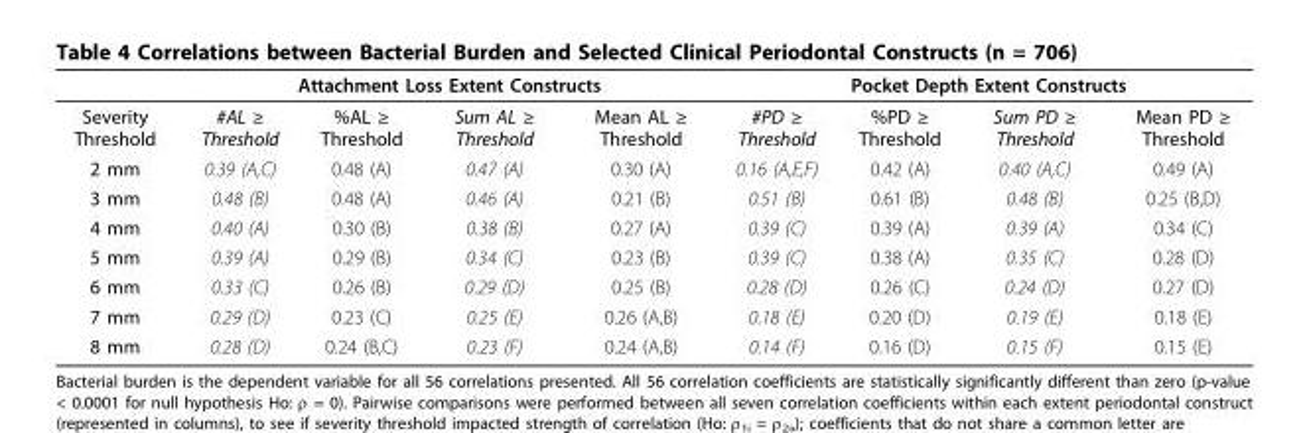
<table><thead><tr><td rowspan="2">Severity Threshold</td><td colspan="4">Attachment Loss Extent Constructs</td><td colspan="4">Pocket Depth Extent Constructs</td></tr><tr><td>#AL ≥ Threshold</td><td>%AL ≥ Threshold</td><td>Sum AL ≥ Threshold</td><td>Mean AL ≥ Threshold</td><td>#PD ≥ Threshold</td><td>%PD ≥ Threshold</td><td>Sum PD ≥ Threshold</td><td>Mean PD ≥ Threshold</td></tr></thead><tbody><tr><td>2 mm</td><td>0.39 (A,C)</td><td>0.48 (A)</td><td>0.47 (A)</td><td>0.30 (A)</td><td>0.16 (A,E,F)</td><td>0.42 (A)</td><td>0.40 (A,C)</td><td>0.49 (A)</td></tr><tr><td>3 mm</td><td>0.48 (B)</td><td>0.48 (A)</td><td>0.46 (A)</td><td>0.21 (B)</td><td>0.51 (B)</td><td>0.61 (B)</td><td>0.48 (B)</td><td>0.25 (B,D)</td></tr><tr><td>4 mm</td><td>0.40 (A)</td><td>0.30 (B)</td><td>0.38 (B)</td><td>0.27 (A)</td><td>0.39 (C)</td><td>0.39 (A)</td><td>0.39 (A)</td><td>0.34 (C)</td></tr><tr><td>5 mm</td><td>0.39 (A)</td><td>0.29 (B)</td><td>0.34 (C)</td><td>0.23 (B)</td><td>0.39 (C)</td><td>0.38 (A)</td><td>0.35 (C)</td><td>0.28 (D)</td></tr><tr><td>6 mm</td><td>0.33 (C)</td><td>0.26 (B)</td><td>0.29 (D)</td><td>0.25 (B)</td><td>0.28 (D)</td><td>0.26 (C)</td><td>0.24 (D)</td><td>0.27 (D)</td></tr><tr><td>7 mm</td><td>0.29 (D)</td><td>0.23 (C)</td><td>0.25 (E)</td><td>0.26 (A,B)</td><td>0.18 (E)</td><td>0.20 (D)</td><td>0.19 (E)</td><td>0.18 (E)</td></tr><tr><td>8 mm</td><td>0.28 (D)</td><td>0.24 (B,C)</td><td>0.23 (F)</td><td>0.24 (A,B)</td><td>0.14 (F)</td><td>0.16 (D)</td><td>0.15 (F)</td><td>0.15 (E)</td></tr></tbody></table>